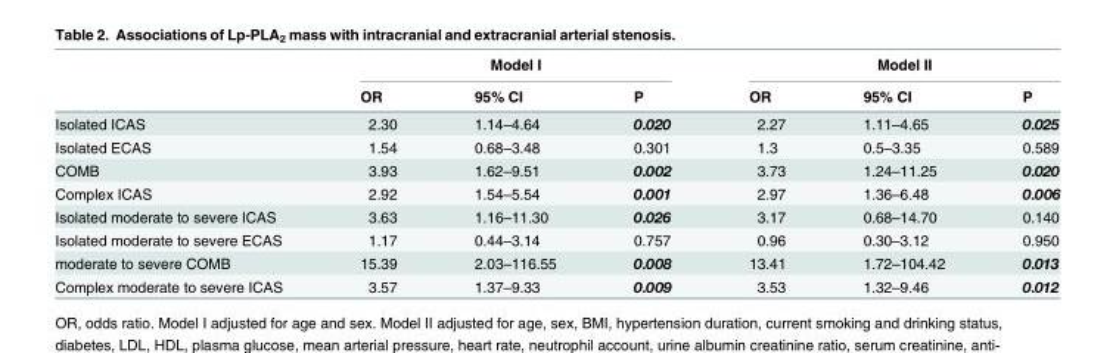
<table><thead><tr><td rowspan="2"></td><td colspan="3">Model I</td><td colspan="3">Model II</td></tr><tr><td>OR</td><td>95% CI</td><td>P</td><td>OR</td><td>95% CI</td><td>P</td></tr></thead><tbody><tr><td>Isolated ICAS</td><td>2.30</td><td>1.14–4.64</td><td>0.020</td><td>2.27</td><td>1.11–4.65</td><td>0.025</td></tr><tr><td>Isolated ECAS</td><td>1.54</td><td>0.68–3.48</td><td>0.301</td><td>1.3</td><td>0.5–3.35</td><td>0.589</td></tr><tr><td>COMB</td><td>3.93</td><td>1.62–9.51</td><td>0.002</td><td>3.73</td><td>1.24–11.25</td><td>0.020</td></tr><tr><td>Complex ICAS</td><td>2.92</td><td>1.54–5.54</td><td>0.001</td><td>2.97</td><td>1.36–6.48</td><td>0.006</td></tr><tr><td>Isolated moderate to severe ICAS</td><td>3.63</td><td>1.16–11.30</td><td>0.026</td><td>3.17</td><td>0.68–14.70</td><td>0.140</td></tr><tr><td>Isolated moderate to severe ECAS</td><td>1.17</td><td>0.44–3.14</td><td>0.757</td><td>0.96</td><td>0.30–3.12</td><td>0.950</td></tr><tr><td>moderate to severe COMB</td><td>15.39</td><td>2.03–116.55</td><td>0.008</td><td>13.41</td><td>1.72–104.42</td><td>0.013</td></tr><tr><td>Complex moderate to severe ICAS</td><td>3.57</td><td>1.37–9.33</td><td>0.009</td><td>3.53</td><td>1.32–9.46</td><td>0.012</td></tr></tbody></table>